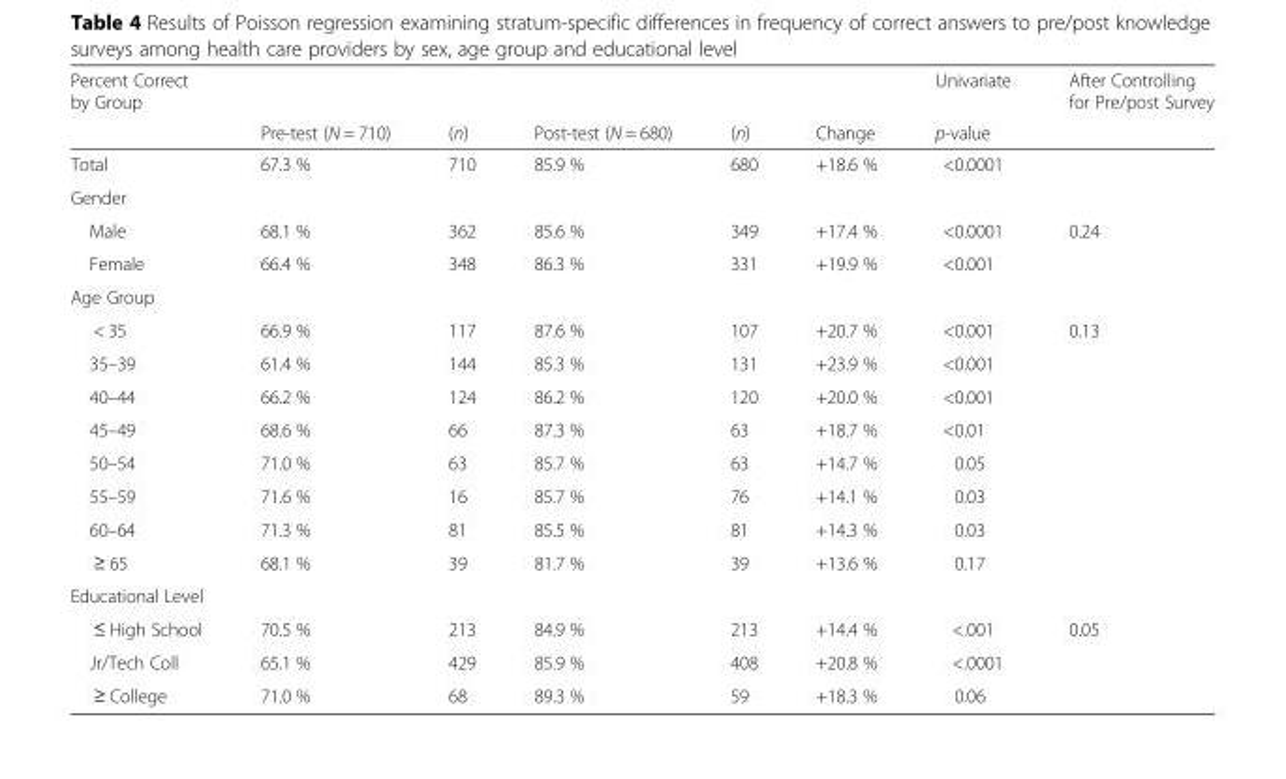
<table><thead><tr><td rowspan="2">Percent Correct by Group</td><td rowspan="2">Pre-test (N = 710)</td><td rowspan="2">(n)</td><td rowspan="2">Post-test (N = 680)</td><td rowspan="2">(n)</td><td rowspan="2">Change</td><td rowspan="2">Univariate p-value</td><td rowspan="2">After Controlling for Pre/post Survey</td></tr><tr></tr></thead><tbody><tr><td>Total</td><td>67.3 %</td><td>710</td><td>85.9 %</td><td>680</td><td>+18.6 %</td><td>&lt;0.0001</td><td></td></tr><tr><td colspan="8">Gender</td></tr><tr><td>Male</td><td>68.1 %</td><td>362</td><td>85.6 %</td><td>349</td><td>+17.4 %</td><td>&lt;0.0001</td><td>0.24</td></tr><tr><td>Female</td><td>66.4 %</td><td>348</td><td>86.3 %</td><td>331</td><td>+19.9 %</td><td>&lt;0.001</td><td></td></tr><tr><td colspan="8">Age Group</td></tr><tr><td>&lt; 35</td><td>66.9 %</td><td>117</td><td>87.6 %</td><td>107</td><td>+20.7 %</td><td>&lt;0.001</td><td>0.13</td></tr><tr><td>35–39</td><td>61.4 %</td><td>144</td><td>85.3 %</td><td>131</td><td>+23.9 %</td><td>&lt;0.001</td><td></td></tr><tr><td>40–44</td><td>66.2 %</td><td>124</td><td>86.2 %</td><td>120</td><td>+20.0 %</td><td>&lt;0.001</td><td></td></tr><tr><td>45–49</td><td>68.6 %</td><td>66</td><td>87.3 %</td><td>63</td><td>+18.7 %</td><td>&lt;0.01</td><td></td></tr><tr><td>50–54</td><td>71.0 %</td><td>63</td><td>85.7 %</td><td>63</td><td>+14.7 %</td><td>0.05</td><td></td></tr><tr><td>55–59</td><td>71.6 %</td><td>16</td><td>85.7 %</td><td>76</td><td>+14.1 %</td><td>0.03</td><td></td></tr><tr><td>60–64</td><td>71.3 %</td><td>81</td><td>85.5 %</td><td>81</td><td>+14.3 %</td><td>0.03</td><td></td></tr><tr><td>≥ 65</td><td>68.1 %</td><td>39</td><td>81.7 %</td><td>39</td><td>+13.6 %</td><td>0.17</td><td></td></tr><tr><td colspan="8">Educational Level</td></tr><tr><td>≤ High School</td><td>70.5 %</td><td>213</td><td>84.9 %</td><td>213</td><td>+14.4 %</td><td>&lt;.001</td><td>0.05</td></tr><tr><td>Jr/Tech Coll</td><td>65.1 %</td><td>429</td><td>85.9 %</td><td>408</td><td>+20.8 %</td><td>&lt;.0001</td><td></td></tr><tr><td>≥ College</td><td>71.0 %</td><td>68</td><td>89.3 %</td><td>59</td><td>+18.3 %</td><td>0.06</td><td></td></tr></tbody></table>